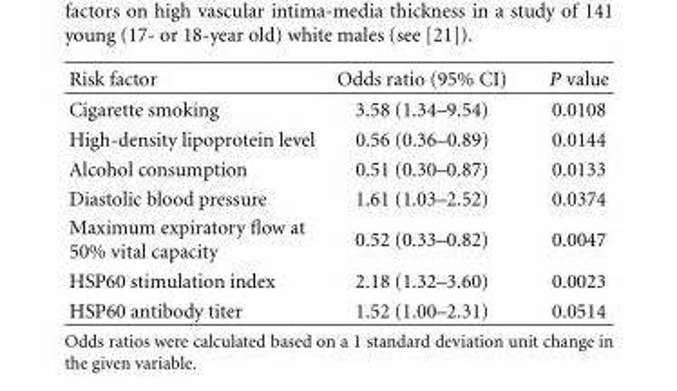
<table><thead><tr><td>Risk factor</td><td>Odds ratio (95% CI)</td><td>P value</td></tr></thead><tbody><tr><td>Cigarette smoking</td><td>3.58 (1.34–9.54)</td><td>0.0108</td></tr><tr><td>High-density lipoprotein level</td><td>0.56 (0.36–0.89)</td><td>0.0144</td></tr><tr><td>Alcohol consumption</td><td>0.51 (0.30–0.87)</td><td>0.0133</td></tr><tr><td>Diastolic blood pressure</td><td>1.61 (1.03–2.52)</td><td>0.0374</td></tr><tr><td>Maximum expiratory flow at 50% vital capacity</td><td>0.52 (0.33–0.82)</td><td>0.0047</td></tr><tr><td>HSP60 stimulation index</td><td>2.18 (1.32–3.60)</td><td>0.0023</td></tr><tr><td>HSP60 antibody titer</td><td>1.52 (1.00–2.31)</td><td>0.0514</td></tr></tbody></table>